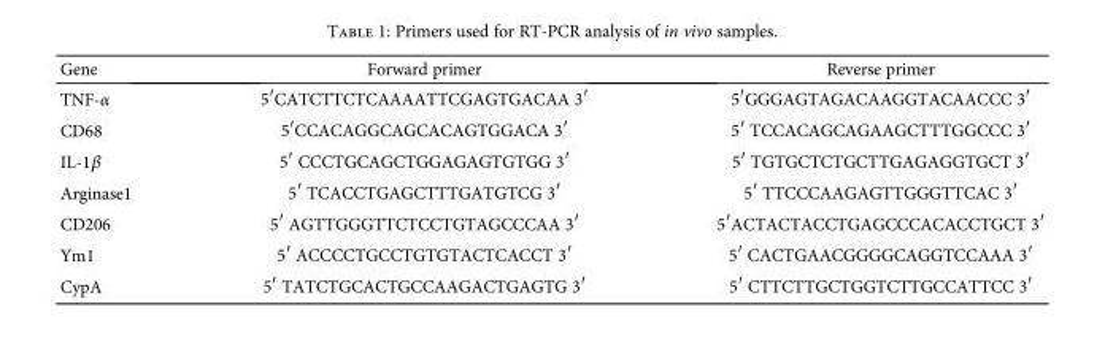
<table><thead><tr><td>Gene</td><td>Forward primer</td><td>Reverse primer</td></tr></thead><tbody><tr><td>TNF-α</td><td>5′CATCTTCTCAAAATTCGAGTGACAA 3′</td><td>5′GGGAGTAGACAAGGTACAACCC 3′</td></tr><tr><td>CD68</td><td>5′CCACAGGCAGCACAGTGGACA 3′</td><td>5′ TCCACAGCAGAAGCTTTGGCCC 3′</td></tr><tr><td>IL-1β</td><td>5′ CCCTGCAGCTGGAGAGTGTGG 3′</td><td>5′ TGTGCTCTGCTTGAGAGGTGCT 3′</td></tr><tr><td>Arginase1</td><td>5′ TCACCTGAGCTTTGATGTCG 3′</td><td>5′ TTCCCAAGAGTTGGGTTCAC 3′</td></tr><tr><td>CD206</td><td>5′ AGTTGGGTTCTCCTGTAGCCCAA 3′</td><td>5′ACTACTACCTGAGCCCACACCTGCT 3′</td></tr><tr><td>Ym1</td><td>5′ ACCCCTGCCTGTGTACTCACCT 3′</td><td>5′ CACTGAACGGGGCAGGTCCAAA 3′</td></tr><tr><td>CypA</td><td>5′ TATCTGCACTGCCAAGACTGAGTG 3′</td><td>5′ CTTCTTGCTGGTCTTGCCATTCC 3′</td></tr></tbody></table>